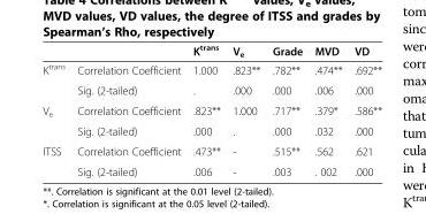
<table><thead><tr><td></td><td></td><td>K<sup>trans</sup></td><td>V<sub>e</sub></td><td>Grade</td><td>MVD</td><td>VD</td></tr></thead><tbody><tr><td rowspan="2">K<sup>trans</sup></td><td>Correlation Coefficient</td><td>1.000</td><td>.823**</td><td>.782**</td><td>.474**</td><td>.692**</td></tr><tr><td>Sig. (2-tailed)</td><td>.</td><td>.000</td><td>.000</td><td>.006</td><td>.000</td></tr><tr><td rowspan="2">V<sub>e</sub></td><td>Correlation Coefficient</td><td>.823**</td><td>1.000</td><td>.717**</td><td>.379*</td><td>.586**</td></tr><tr><td>Sig. (2-tailed)</td><td>.000</td><td>.</td><td>.000</td><td>.032</td><td>.000</td></tr><tr><td rowspan="2">ITSS</td><td>Correlation Coefficient</td><td>.473**</td><td>-</td><td>.515**</td><td>.562</td><td>.621</td></tr><tr><td>Sig. (2-tailed)</td><td>.006</td><td>-</td><td>.003</td><td>. 002</td><td>.000</td></tr></tbody></table>